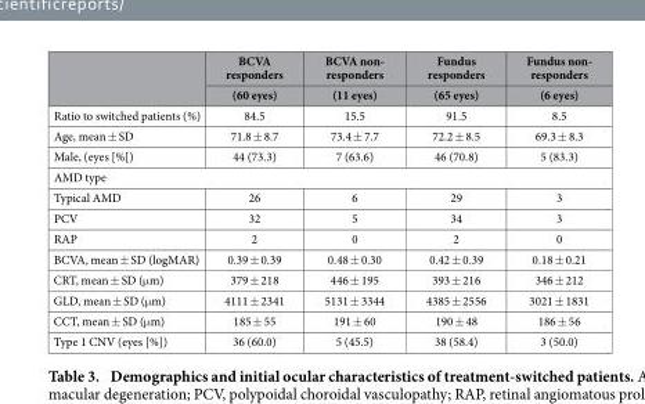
<table><thead><tr><td rowspan="2"></td><td rowspan="2">BCVA responders (60 eyes)</td><td rowspan="2">BCVA non- responders (11 eyes)</td><td rowspan="2">Fundus responders (65 eyes)</td><td rowspan="2">Fundus non- responders (6 eyes)</td></tr><tr></tr></thead><tbody><tr><td>Ratio to switched patients (%)</td><td>84.5</td><td>15.5</td><td>91.5</td><td>8.5</td></tr><tr><td>Age, mean ± SD</td><td>71.8 ± 8.7</td><td>73.4 ± 7.7</td><td>72.2 ± 8.5</td><td>69.3 ± 8.3</td></tr><tr><td>Male, (eyes [%[)</td><td>44 (73.3)</td><td>7 (63.6)</td><td>46 (70.8)</td><td>5 (83.3)</td></tr><tr><td colspan="5">AMD type</td></tr><tr><td>Typical AMD</td><td>26</td><td>6</td><td>29</td><td>3</td></tr><tr><td>PCV</td><td>32</td><td>5</td><td>34</td><td>3</td></tr><tr><td>RAP</td><td>2</td><td>0</td><td>2</td><td>0</td></tr><tr><td>BCVA, mean ± SD (logMAR)</td><td>0.39 ± 0.39</td><td>0.48 ± 0.30</td><td>0.42 ± 0.39</td><td>0.18 ± 0.21</td></tr><tr><td>CRT, mean ± SD (μ m)</td><td>379 ± 218</td><td>446 ± 195</td><td>393 ± 216</td><td>346 ± 212</td></tr><tr><td>GLD, mean ± SD (μ m)</td><td>4111 ± 2341</td><td>5131 ± 3344</td><td>4385 ± 2556</td><td>3021 ± 1831</td></tr><tr><td>CCT, mean ± SD (μ m)</td><td>185 ± 55</td><td>191 ± 60</td><td>190 ± 48</td><td>186 ± 56</td></tr><tr><td>Type 1 CNV (eyes [%])</td><td>36 (60.0)</td><td>5 (45.5)</td><td>38 (58.4)</td><td>3 (50.0)</td></tr></tbody></table>